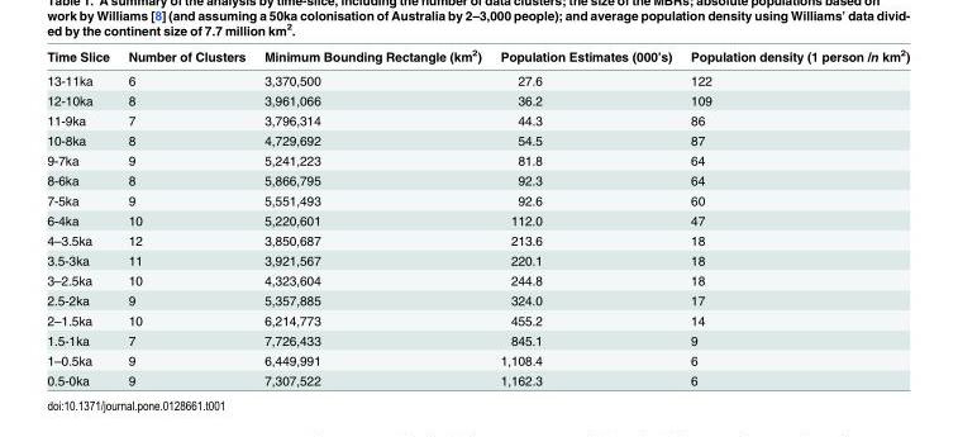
<table><thead><tr><td>Time Slice</td><td>Number of Clusters</td><td>Minimum Bounding Rectangle (km<sup>2</sup>)</td><td>Population Estimates (000’s)</td><td>Population density (1 person /n km<sup>2</sup>)</td></tr></thead><tbody><tr><td>13-11ka</td><td>6</td><td>3,370,500</td><td>27.6</td><td>122</td></tr><tr><td>12-10ka</td><td>8</td><td>3,961,066</td><td>36.2</td><td>109</td></tr><tr><td>11-9ka</td><td>7</td><td>3,796,314</td><td>44.3</td><td>86</td></tr><tr><td>10-8ka</td><td>8</td><td>4,729,692</td><td>54.5</td><td>87</td></tr><tr><td>9-7ka</td><td>9</td><td>5,241,223</td><td>81.8</td><td>64</td></tr><tr><td>8-6ka</td><td>8</td><td>5,866,795</td><td>92.3</td><td>64</td></tr><tr><td>7-5ka</td><td>9</td><td>5,551,493</td><td>92.6</td><td>60</td></tr><tr><td>6-4ka</td><td>10</td><td>5,220,601</td><td>112.0</td><td>47</td></tr><tr><td>4–3.5ka</td><td>12</td><td>3,850,687</td><td>213.6</td><td>18</td></tr><tr><td>3.5-3ka</td><td>11</td><td>3,921,567</td><td>220.1</td><td>18</td></tr><tr><td>3–2.5ka</td><td>10</td><td>4,323,604</td><td>244.8</td><td>18</td></tr><tr><td>2.5-2ka</td><td>9</td><td>5,357,885</td><td>324.0</td><td>17</td></tr><tr><td>2–1.5ka</td><td>10</td><td>6,214,773</td><td>455.2</td><td>14</td></tr><tr><td>1.5-1ka</td><td>7</td><td>7,726,433</td><td>845.1</td><td>9</td></tr><tr><td>1–0.5ka</td><td>9</td><td>6,449,991</td><td>1,108.4</td><td>6</td></tr><tr><td>0.5-0ka</td><td>9</td><td>7,307,522</td><td>1,162.3</td><td>6</td></tr></tbody></table>